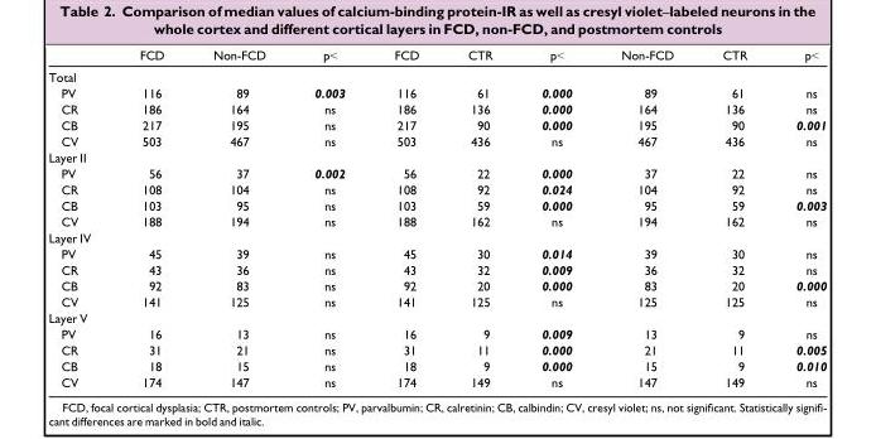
<table><thead><tr><td></td><td>FCD</td><td>Non-FCD</td><td>p&lt;</td><td>FCD</td><td>CTR</td><td>p&lt;</td><td>Non-FCD</td><td>CTR</td><td>p&lt;</td></tr></thead><tbody><tr><td colspan="10">Total</td></tr><tr><td>PV</td><td>116</td><td>89</td><td>0.003</td><td>116</td><td>61</td><td>0.000</td><td>89</td><td>61</td><td>ns</td></tr><tr><td>CR</td><td>186</td><td>164</td><td>ns</td><td>186</td><td>136</td><td>0.000</td><td>164</td><td>136</td><td>ns</td></tr><tr><td>CB</td><td>217</td><td>195</td><td>ns</td><td>217</td><td>90</td><td>0.000</td><td>195</td><td>90</td><td>0.001</td></tr><tr><td>CV</td><td>503</td><td>467</td><td>ns</td><td>503</td><td>436</td><td>ns</td><td>467</td><td>436</td><td>ns</td></tr><tr><td colspan="10">Layer II</td></tr><tr><td>PV</td><td>56</td><td>37</td><td>0.002</td><td>56</td><td>22</td><td>0.000</td><td>37</td><td>22</td><td>ns</td></tr><tr><td>CR</td><td>108</td><td>104</td><td>ns</td><td>108</td><td>92</td><td>0.024</td><td>104</td><td>92</td><td>ns</td></tr><tr><td>CB</td><td>103</td><td>95</td><td>ns</td><td>103</td><td>59</td><td>0.000</td><td>95</td><td>59</td><td>0.003</td></tr><tr><td>CV</td><td>188</td><td>194</td><td>ns</td><td>188</td><td>162</td><td>ns</td><td>194</td><td>162</td><td>ns</td></tr><tr><td colspan="10">Layer IV</td></tr><tr><td>PV</td><td>45</td><td>39</td><td>ns</td><td>45</td><td>30</td><td>0.014</td><td>39</td><td>30</td><td>ns</td></tr><tr><td>CR</td><td>43</td><td>36</td><td>ns</td><td>43</td><td>32</td><td>0.009</td><td>36</td><td>32</td><td>ns</td></tr><tr><td>CB</td><td>92</td><td>83</td><td>ns</td><td>92</td><td>20</td><td>0.000</td><td>83</td><td>20</td><td>0.000</td></tr><tr><td>CV</td><td>141</td><td>125</td><td>ns</td><td>141</td><td>125</td><td>ns</td><td>125</td><td>125</td><td>ns</td></tr><tr><td colspan="10">Layer V</td></tr><tr><td>PV</td><td>16</td><td>13</td><td>ns</td><td>16</td><td>9</td><td>0.009</td><td>13</td><td>9</td><td>ns</td></tr><tr><td>CR</td><td>31</td><td>21</td><td>ns</td><td>31</td><td>11</td><td>0.000</td><td>21</td><td>11</td><td>0.005</td></tr><tr><td>CB</td><td>18</td><td>15</td><td>ns</td><td>18</td><td>9</td><td>0.000</td><td>15</td><td>9</td><td>0.010</td></tr><tr><td>CV</td><td>174</td><td>147</td><td>ns</td><td>174</td><td>149</td><td>ns</td><td>147</td><td>149</td><td>ns</td></tr></tbody></table>